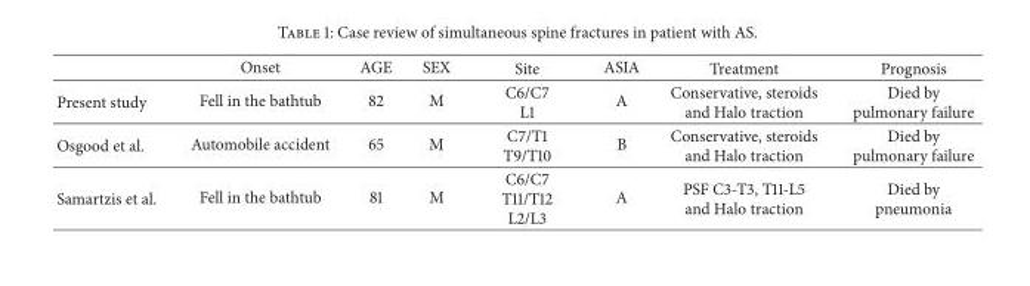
<table><thead><tr><td></td><td>Onset</td><td>AGE</td><td>SEX</td><td>Site</td><td>ASIA</td><td>Treatment</td><td>Prognosis</td></tr></thead><tbody><tr><td>Present study</td><td>Fell in the bathtub</td><td>82</td><td>M</td><td>C6/C7 L1</td><td>A</td><td>Conservative, steroids and Halo traction</td><td>Died by pulmonary failure</td></tr><tr><td>Osgood et al.</td><td>Automobile accident</td><td>65</td><td>M</td><td>C7/T1 T9/T10</td><td>B</td><td>Conservative, steroids and Halo traction</td><td>Died by pulmonary failure</td></tr><tr><td>Samartzis et al.</td><td>Fell in the bathtub</td><td>81</td><td>M</td><td>C6/C7 T11/T12 L2/L3</td><td>A</td><td>PSF C3-T3, T11-L5 and Halo traction</td><td>Died by pneumonia</td></tr></tbody></table>